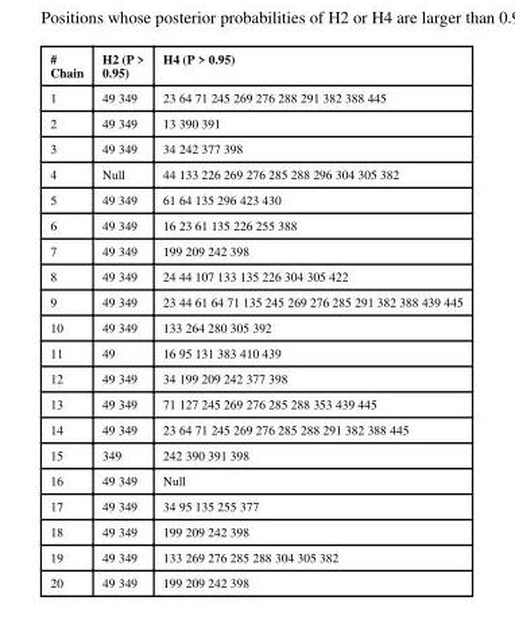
<table><thead><tr><td># Chain</td><td>H2 (P &gt; 0.95)</td><td>H4 (P &gt; 0.95)</td></tr></thead><tbody><tr><td>1</td><td>49 349</td><td>23 64 71 245 269 276 288 291 382 388 445</td></tr><tr><td>2</td><td>49 349</td><td>13 390 391</td></tr><tr><td>3</td><td>49 349</td><td>34 242 377 398</td></tr><tr><td>4</td><td>Null</td><td>44 133 226 269 276 285 288 296 304 305 382</td></tr><tr><td>5</td><td>49 349</td><td>61 64 135 296 423 430</td></tr><tr><td>6</td><td>49 349</td><td>16 23 61 135 226 255 388</td></tr><tr><td>7</td><td>49 349</td><td>199 209 242 398</td></tr><tr><td>8</td><td>49 349</td><td>24 44 107 133 135 226 304 305 422</td></tr><tr><td>9</td><td>49 349</td><td>23 44 61 64 71 135 245 269 276 285 291 382 388 439 445</td></tr><tr><td>10</td><td>49 349</td><td>133 264 280 305 392</td></tr><tr><td>11</td><td>49</td><td>16 95 131 383 410 439</td></tr><tr><td>12</td><td>49 349</td><td>34 199 209 242 377 398</td></tr><tr><td>13</td><td>49 349</td><td>71 127 245 269 276 285 288 353 439 445</td></tr><tr><td>14</td><td>49 349</td><td>23 64 71 245 269 276 285 288 291 382 388 445</td></tr><tr><td>15</td><td>349</td><td>242 390 391 398</td></tr><tr><td>16</td><td>49 349</td><td>Null</td></tr><tr><td>17</td><td>49 349</td><td>34 95 135 255 377</td></tr><tr><td>18</td><td>49 349</td><td>199 209 242 398</td></tr><tr><td>19</td><td>49 349</td><td>133 269 276 285 288 304 305 382</td></tr><tr><td>20</td><td>49 349</td><td>199 209 242 398</td></tr></tbody></table>